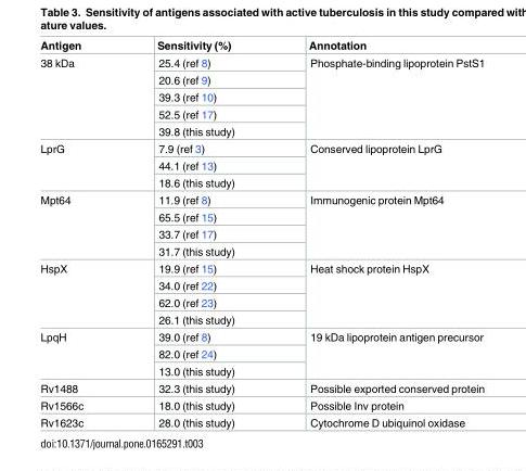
<table><thead><tr><td>Antigen</td><td>Sensitivity (%)</td><td>Annotation</td></tr></thead><tbody><tr><td rowspan="5">38 kDa</td><td>25.4 (ref 8)</td><td rowspan="5">Phosphate-binding lipoprotein PstS1</td></tr><tr><td>20.6 (ref 9)</td></tr><tr><td>39.3 (ref 10)</td></tr><tr><td>52.5 (ref 17)</td></tr><tr><td>39.8 (this study)</td></tr><tr><td rowspan="3">LprG</td><td>7.9 (ref 3)</td><td rowspan="3">Conserved lipoprotein LprG</td></tr><tr><td>44.1 (ref 13)</td></tr><tr><td>18.6 (this study)</td></tr><tr><td rowspan="4">Mpt64</td><td>11.9 (ref 8)</td><td rowspan="4">Immunogenic protein Mpt64</td></tr><tr><td>65.5 (ref 15)</td></tr><tr><td>33.7 (ref 17)</td></tr><tr><td>31.7 (this study)</td></tr><tr><td rowspan="4">HspX</td><td>19.9 (ref 15)</td><td rowspan="4">Heat shock protein HspX</td></tr><tr><td>34.0 (ref 22)</td></tr><tr><td>62.0 (ref 23)</td></tr><tr><td>26.1 (this study)</td></tr><tr><td rowspan="3">LpqH</td><td>39.0 (ref 8)</td><td rowspan="3">19 kDa lipoprotein antigen precursor</td></tr><tr><td>82.0 (ref 24)</td></tr><tr><td>13.0 (this study)</td></tr><tr><td>Rv1488</td><td>32.3 (this study)</td><td>Possible exported conserved protein</td></tr><tr><td>Rv1566c</td><td>18.0 (this study)</td><td>Possible Inv protein</td></tr><tr><td>Rv1623c</td><td>28.0 (this study)</td><td>Cytochrome D ubiquinol oxidase</td></tr></tbody></table>